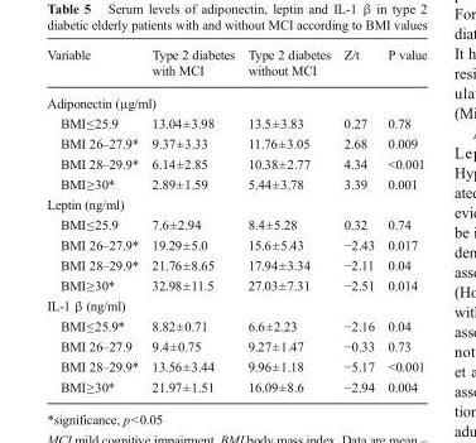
<table><thead><tr><td>Variable</td><td>Type 2 diabetes with MCI</td><td>Type 2 diabetes without MCI</td><td>Z/t</td><td>P value</td></tr></thead><tbody><tr><td colspan="5">Adiponectin (μg/ml)</td></tr><tr><td>BMI≤25.9</td><td>13.04±3.98</td><td>13.5±3.83</td><td>0.27</td><td>0.78</td></tr><tr><td>BMI 26–27.9*</td><td>9.37±3.33</td><td>11.76±3.05</td><td>2.68</td><td>0.009</td></tr><tr><td>BMI 28–29.9*</td><td>6.14±2.85</td><td>10.38±2.77</td><td>4.34</td><td>&lt;0.001</td></tr><tr><td>BMI≥30*</td><td>2.89±1.59</td><td>5.44±3.78</td><td>3.39</td><td>0.001</td></tr><tr><td colspan="5">Leptin (ng/ml)</td></tr><tr><td>BMI≤25.9</td><td>7.6±2.94</td><td>8.4±5.28</td><td>0.32</td><td>0.74</td></tr><tr><td>BMI 26–27.9*</td><td>19.29±5.0</td><td>15.6±5.43</td><td>−2.43</td><td>0.017</td></tr><tr><td>BMI 28–29.9*</td><td>21.76±8.65</td><td>17.94±3.34</td><td>−2.11</td><td>0.04</td></tr><tr><td>BMI≥30*</td><td>32.98±11.5</td><td>27.03±7.31</td><td>−2.51</td><td>0.014</td></tr><tr><td colspan="5">IL-1 β (ng/ml)</td></tr><tr><td>BMI≤25.9*</td><td>8.82±0.71</td><td>6.6±2.23</td><td>−2.16</td><td>0.04</td></tr><tr><td>BMI 26–27.9</td><td>9.4±0.75</td><td>9.27±1.47</td><td>−0.33</td><td>0.73</td></tr><tr><td>BMI 28–29.9*</td><td>13.56±3.44</td><td>9.96±1.18</td><td>−5.17</td><td>&lt;0.001</td></tr><tr><td>BMI≥30*</td><td>21.97±1.51</td><td>16.09±8.6</td><td>−2.94</td><td>0.004</td></tr></tbody></table>